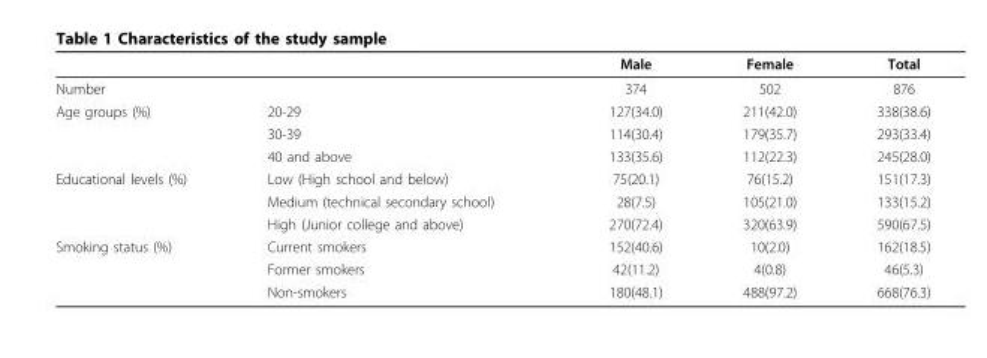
<table><thead><tr><td></td><td></td><td>Male</td><td>Female</td><td>Total</td></tr></thead><tbody><tr><td>Number</td><td></td><td>374</td><td>502</td><td>876</td></tr><tr><td rowspan="3">Age groups (%)</td><td>20-29</td><td>127(34.0)</td><td>211(42.0)</td><td>338(38.6)</td></tr><tr><td>30-39</td><td>114(30.4)</td><td>179(35.7)</td><td>293(33.4)</td></tr><tr><td>40 and above</td><td>133(35.6)</td><td>112(22.3)</td><td>245(28.0)</td></tr><tr><td rowspan="3">Educational levels (%)</td><td>Low (High school and below)</td><td>75(20.1)</td><td>76(15.2)</td><td>151(17.3)</td></tr><tr><td>Medium (technical secondary school)</td><td>28(7.5)</td><td>105(21.0)</td><td>133(15.2)</td></tr><tr><td>High (Junior college and above)</td><td>270(72.4)</td><td>320(63.9)</td><td>590(67.5)</td></tr><tr><td rowspan="3">Smoking status (%)</td><td>Current smokers</td><td>152(40.6)</td><td>10(2.0)</td><td>162(18.5)</td></tr><tr><td>Former smokers</td><td>42(11.2)</td><td>4(0.8)</td><td>46(5.3)</td></tr><tr><td>Non-smokers</td><td>180(48.1)</td><td>488(97.2)</td><td>668(76.3)</td></tr></tbody></table>